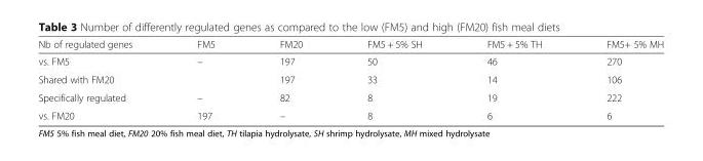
<table><thead><tr><td>Nb of regulated genes</td><td>FM5</td><td>FM20</td><td>FM5 + 5% SH</td><td>FM5 + 5% TH</td><td>FM5+ 5% MH</td></tr></thead><tbody><tr><td>vs. FM5</td><td>–</td><td>197</td><td>50</td><td>46</td><td>270</td></tr><tr><td>Shared with FM20</td><td></td><td>197</td><td>33</td><td>14</td><td>106</td></tr><tr><td>Specifically regulated</td><td>–</td><td>82</td><td>8</td><td>19</td><td>222</td></tr><tr><td>vs. FM20</td><td>197</td><td>–</td><td>8</td><td>6</td><td>6</td></tr></tbody></table>